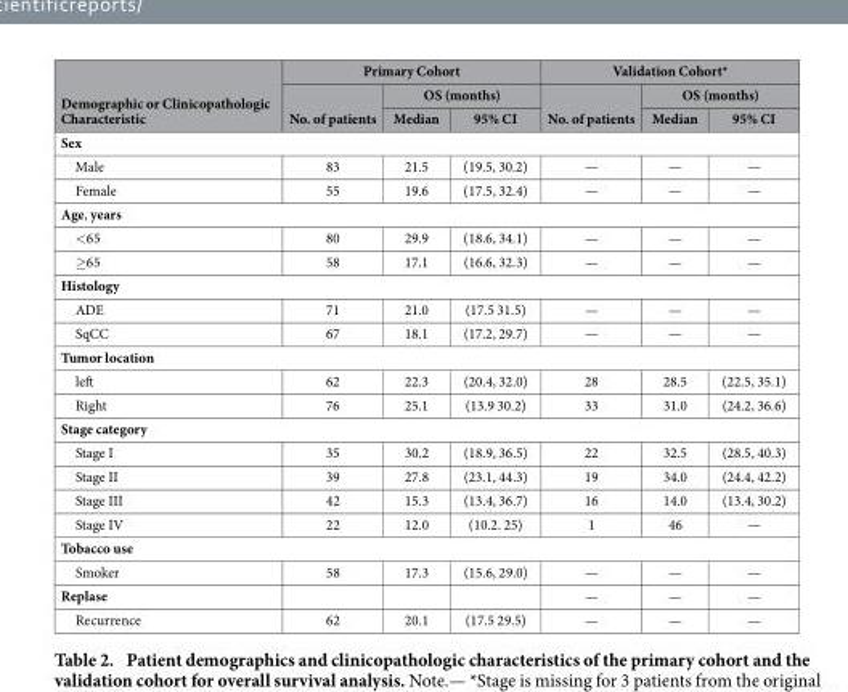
<table><thead><tr><td rowspan="3">Demographic or Clinicopathologic Characteristic</td><td colspan="3">Primary Cohort</td><td colspan="3">Validation Cohort*</td></tr><tr><td rowspan="2">No. of patients</td><td colspan="2">OS (months)</td><td rowspan="2">No. of patients</td><td colspan="2">OS (months)</td></tr><tr><td>Median</td><td>95% CI</td><td>Median</td><td>95% CI</td></tr></thead><tbody><tr><td colspan="7">Sex</td></tr><tr><td>Male</td><td>83</td><td>21.5</td><td>(19.5, 30.2)</td><td>—</td><td>—</td><td>—</td></tr><tr><td>Female</td><td>55</td><td>19.6</td><td>(17.5, 32.4)</td><td>—</td><td>—</td><td>—</td></tr><tr><td colspan="7">Age, years</td></tr><tr><td>&lt; 65</td><td>80</td><td>29.9</td><td>(18.6, 34.1)</td><td>—</td><td>—</td><td>—</td></tr><tr><td>≥ 65</td><td>58</td><td>17.1</td><td>(16.6, 32.3)</td><td>—</td><td>—</td><td>—</td></tr><tr><td colspan="7">Histology</td></tr><tr><td>ADE</td><td>71</td><td>21.0</td><td>(17.5 31.5)</td><td>—</td><td>—</td><td>—</td></tr><tr><td>SqCC</td><td>67</td><td>18.1</td><td>(17.2, 29.7)</td><td>—</td><td>—</td><td>—</td></tr><tr><td colspan="7">Tumor location</td></tr><tr><td>left</td><td>62</td><td>22.3</td><td>(20.4, 32.0)</td><td>28</td><td>28.5</td><td>(22.5, 35.1)</td></tr><tr><td>Right</td><td>76</td><td>25.1</td><td>(13.9 30.2)</td><td>33</td><td>31.0</td><td>(24.2, 36.6)</td></tr><tr><td colspan="7">Stage category</td></tr><tr><td>Stage I</td><td>35</td><td>30.2</td><td>(18.9, 36.5)</td><td>22</td><td>32.5</td><td>(28.5, 40.3)</td></tr><tr><td>Stage II</td><td>39</td><td>27.8</td><td>(23.1, 44.3)</td><td>19</td><td>34.0</td><td>(24.4, 42.2)</td></tr><tr><td>Stage III</td><td>42</td><td>15.3</td><td>(13.4, 36.7)</td><td>16</td><td>14.0</td><td>(13.4, 30.2)</td></tr><tr><td>Stage IV</td><td>22</td><td>12.0</td><td>(10.2. 25)</td><td>1</td><td>46</td><td>—</td></tr><tr><td colspan="7">Tobacco use</td></tr><tr><td>Smoker</td><td>58</td><td>17.3</td><td>(15.6, 29.0)</td><td>—</td><td>—</td><td>—</td></tr><tr><td>Replase</td><td></td><td></td><td></td><td>—</td><td>—</td><td>—</td></tr><tr><td>Recurrence</td><td>62</td><td>20.1</td><td>(17.5 29.5)</td><td>—</td><td>—</td><td>—</td></tr></tbody></table>